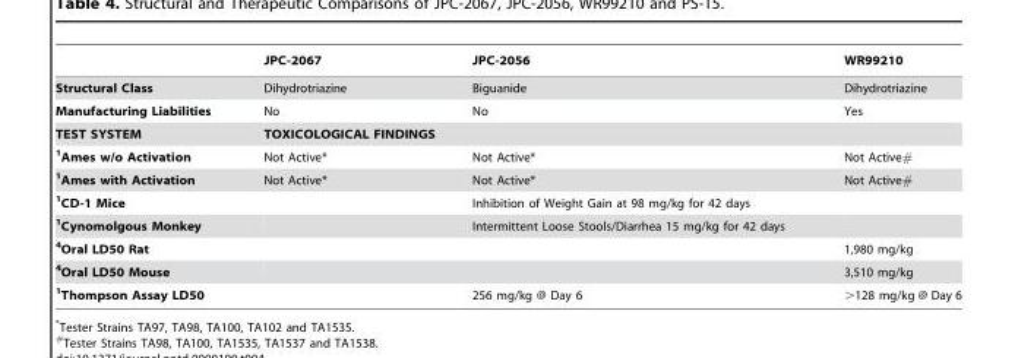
<table><thead><tr><td></td><td>JPC-2067</td><td>JPC-2056</td><td>WR99210</td></tr></thead><tbody><tr><td>Structural Class</td><td>Dihydrotriazine</td><td>Biguanide</td><td>Dihydrotriazine</td></tr><tr><td>Manufacturing Liabilities</td><td>No</td><td>No</td><td>Yes</td></tr><tr><td>TEST SYSTEM</td><td colspan="3">TOXICOLOGICAL FINDINGS</td></tr><tr><td><sup>1</sup>Ames w/o Activation</td><td>Not Active*</td><td>Not Active*</td><td>Not Active#</td></tr><tr><td><sup>1</sup>Ames with Activation</td><td>Not Active*</td><td>Not Active*</td><td>Not Active#</td></tr><tr><td><sup>1</sup>CD-1 Mice</td><td></td><td>Inhibition of Weight Gain at 98 mg/kg for 42 days</td><td></td></tr><tr><td><sup>1</sup>Cynomolgous Monkey</td><td></td><td>Intermittent Loose Stools/Diarrhea 15 mg/kg for 42 days</td><td></td></tr><tr><td><sup>4</sup>Oral LD50 Rat</td><td></td><td></td><td>1,980 mg/kg</td></tr><tr><td><sup>4</sup>Oral LD50 Mouse</td><td></td><td></td><td>3,510 mg/kg</td></tr><tr><td><sup>1</sup>Thompson Assay LD50</td><td></td><td>256 mg/kg @ Day 6</td><td>&gt;128 mg/kg @ Day 6</td></tr></tbody></table>